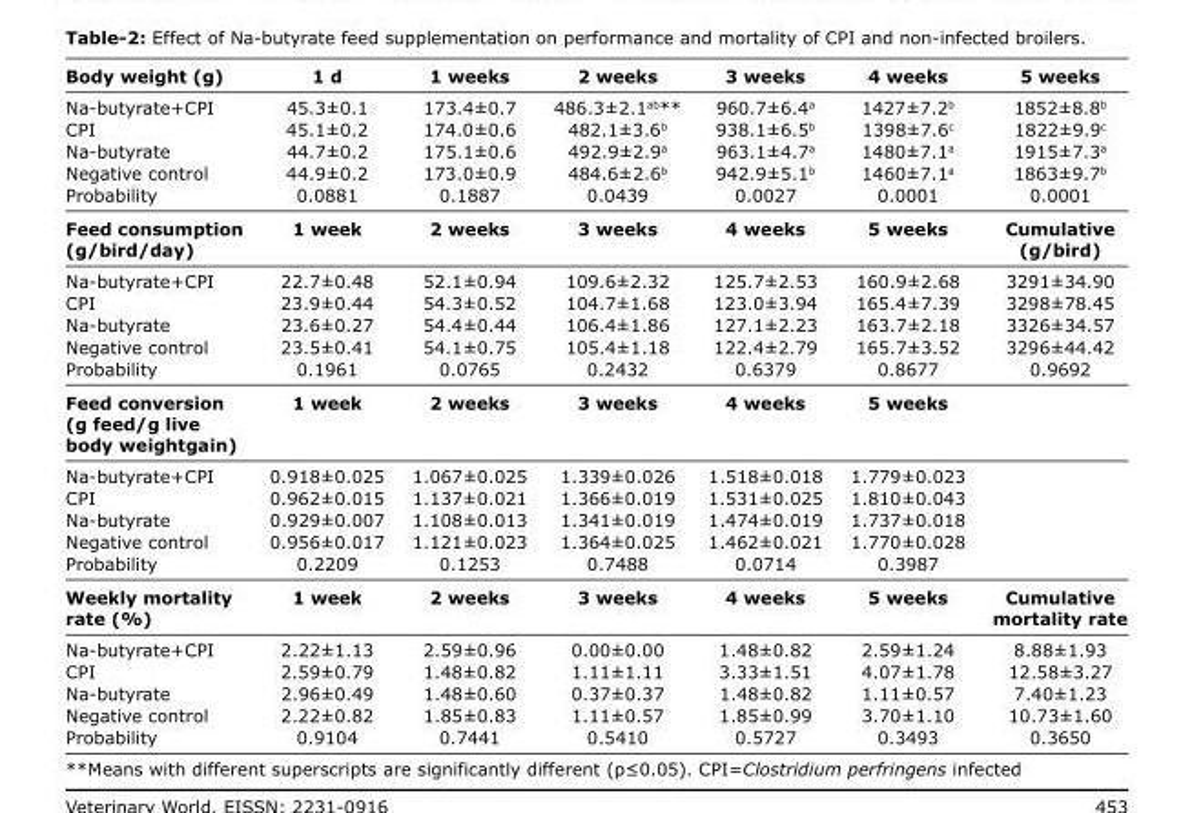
<table><thead><tr><td>Body weight (g)</td><td>1 d</td><td>1 weeks</td><td>2 weeks</td><td>3 weeks</td><td>4 weeks</td><td>5 weeks</td></tr></thead><tbody><tr><td>Na-butyrate+CPI</td><td>45.3±0.1</td><td>173.4±0.7</td><td>486.3±2.1<sup>ab</sup>**</td><td>960.7±6.4<sup>a</sup></td><td>1427±7.2<sup>b</sup></td><td>1852±8.8<sup>b</sup></td></tr><tr><td>CPI</td><td>45.1±0.2</td><td>174.0±0.6</td><td>482.1±3.6<sup>b</sup></td><td>938.1±6.5<sup>b</sup></td><td>1398±7.6<sup>c</sup></td><td>1822±9.9<sup>c</sup></td></tr><tr><td>Na-butyrate</td><td>44.7±0.2</td><td>175.1±0.6</td><td>492.9±2.9<sup>a</sup></td><td>963.1±4.7<sup>a</sup></td><td>1480±7.1<sup>a</sup></td><td>1915±7.3<sup>a</sup></td></tr><tr><td>Negative control</td><td>44.9±0.2</td><td>173.0±0.9</td><td>484.6±2.6<sup>b</sup></td><td>942.9±5.1<sup>b</sup></td><td>1460±7.1<sup>a</sup></td><td>1863±9.7<sup>b</sup></td></tr><tr><td>Probability</td><td>0.0881</td><td>0.1887</td><td>0.0439</td><td>0.0027</td><td>0.0001</td><td>0.0001</td></tr><tr><td>Feed consumption (g/bird/day)</td><td>1 week</td><td>2 weeks</td><td>3 weeks</td><td>4 weeks</td><td>5 weeks</td><td>Cumulative (g/bird)</td></tr><tr><td>Na-butyrate+CPI</td><td>22.7±0.48</td><td>52.1±0.94</td><td>109.6±2.32</td><td>125.7±2.53</td><td>160.9±2.68</td><td>3291±34.90</td></tr><tr><td>CPI</td><td>23.9±0.44</td><td>54.3±0.52</td><td>104.7±1.68</td><td>123.0±3.94</td><td>165.4±7.39</td><td>3298±78.45</td></tr><tr><td>Na-butyrate</td><td>23.6±0.27</td><td>54.4±0.44</td><td>106.4±1.86</td><td>127.1±2.23</td><td>163.7±2.18</td><td>3326±34.57</td></tr><tr><td>Negative control</td><td>23.5±0.41</td><td>54.1±0.75</td><td>105.4±1.18</td><td>122.4±2.79</td><td>165.7±3.52</td><td>3296±44.42</td></tr><tr><td>Probability</td><td>0.1961</td><td>0.0765</td><td>0.2432</td><td>0.6379</td><td>0.8677</td><td>0.9692</td></tr><tr><td>Feed conversion (g feed/g live body weightgain)</td><td>1 week</td><td>2 weeks</td><td>3 weeks</td><td>4 weeks</td><td>5 weeks</td><td></td></tr><tr><td>Na-butyrate+CPI</td><td>0.918±0.025</td><td>1.067±0.025</td><td>1.339±0.026</td><td>1.518±0.018</td><td>1.779±0.023</td><td></td></tr><tr><td>CPI</td><td>0.962±0.015</td><td>1.137±0.021</td><td>1.366±0.019</td><td>1.531±0.025</td><td>1.810±0.043</td><td></td></tr><tr><td>Na-butyrate</td><td>0.929±0.007</td><td>1.108±0.013</td><td>1.341±0.019</td><td>1.474±0.019</td><td>1.737±0.018</td><td></td></tr><tr><td>Negative control</td><td>0.956±0.017</td><td>1.121±0.023</td><td>1.364±0.025</td><td>1.462±0.021</td><td>1.770±0.028</td><td></td></tr><tr><td>Probability</td><td>0.2209</td><td>0.1253</td><td>0.7488</td><td>0.0714</td><td>0.3987</td><td></td></tr><tr><td>Weekly mortality rate (%)</td><td>1 week</td><td>2 weeks</td><td>3 weeks</td><td>4 weeks</td><td>5 weeks</td><td>Cumulative mortality rate</td></tr><tr><td>Na-butyrate+CPI</td><td>2.22±1.13</td><td>2.59±0.96</td><td>0.00±0.00</td><td>1.48±0.82</td><td>2.59±1.24</td><td>8.88±1.93</td></tr><tr><td>CPI</td><td>2.59±0.79</td><td>1.48±0.82</td><td>1.11±1.11</td><td>3.33±1.51</td><td>4.07±1.78</td><td>12.58±3.27</td></tr><tr><td>Na-butyrate</td><td>2.96±0.49</td><td>1.48±0.60</td><td>0.37±0.37</td><td>1.48±0.82</td><td>1.11±0.57</td><td>7.40±1.23</td></tr><tr><td>Negative control</td><td>2.22±0.82</td><td>1.85±0.83</td><td>1.11±0.57</td><td>1.85±0.99</td><td>3.70±1.10</td><td>10.73±1.60</td></tr><tr><td>Probability</td><td>0.9104</td><td>0.7441</td><td>0.5410</td><td>0.5727</td><td>0.3493</td><td>0.3650</td></tr></tbody></table>